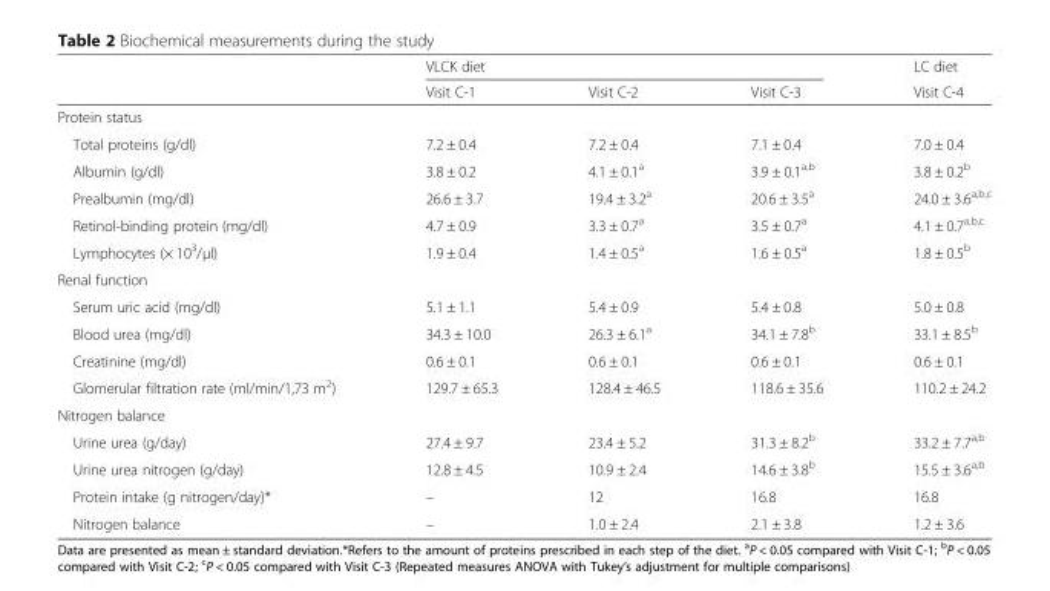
<table><thead><tr><td rowspan="2"></td><td colspan="3">VLCK diet</td><td rowspan="2">LC diet Visit C-4</td></tr><tr><td>Visit C-1</td><td>Visit C-2</td><td>Visit C-3</td></tr></thead><tbody><tr><td colspan="5">Protein status</td></tr><tr><td>Total proteins (g/dl)</td><td>7.2 ± 0.4</td><td>7.2 ± 0.4</td><td>7.1 ± 0.4</td><td>7.0 ± 0.4</td></tr><tr><td>Albumin (g/dl)</td><td>3.8 ± 0.2</td><td>4.1 ± 0.1<sup>a</sup></td><td>3.9 ± 0.1<sup>a,b</sup></td><td>3.8 ± 0.2<sup>b</sup></td></tr><tr><td>Prealbumin (mg/dl)</td><td>26.6 ± 3.7</td><td>19.4 ± 3.2<sup>a</sup></td><td>20.6 ± 3.5<sup>a</sup></td><td>24.0 ± 3.6<sup>a,b,c</sup></td></tr><tr><td>Retinol-binding protein (mg/dl)</td><td>4.7 ± 0.9</td><td>3.3 ± 0.7<sup>a</sup></td><td>3.5 ± 0.7<sup>a</sup></td><td>4.1 ± 0.7<sup>a,b,c</sup></td></tr><tr><td>Lymphocytes (× 10<sup>3</sup>/μl)</td><td>1.9 ± 0.4</td><td>1.4 ± 0.5<sup>a</sup></td><td>1.6 ± 0.5<sup>a</sup></td><td>1.8 ± 0.5<sup>b</sup></td></tr><tr><td colspan="5">Renal function</td></tr><tr><td>Serum uric acid (mg/dl)</td><td>5.1 ± 1.1</td><td>5.4 ± 0.9</td><td>5.4 ± 0.8</td><td>5.0 ± 0.8</td></tr><tr><td>Blood urea (mg/dl)</td><td>34.3 ± 10.0</td><td>26.3 ± 6.1<sup>a</sup></td><td>34.1 ± 7.8<sup>b</sup></td><td>33.1 ± 8.5<sup>b</sup></td></tr><tr><td>Creatinine (mg/dl)</td><td>0.6 ± 0.1</td><td>0.6 ± 0.1</td><td>0.6 ± 0.1</td><td>0.6 ± 0.1</td></tr><tr><td>Glomerular filtration rate (ml/min/1,73 m<sup>2</sup>)</td><td>129.7 ± 65.3</td><td>128.4 ± 46.5</td><td>118.6 ± 35.6</td><td>110.2 ± 24.2</td></tr><tr><td colspan="5">Nitrogen balance</td></tr><tr><td>Urine urea (g/day)</td><td>27.4 ± 9.7</td><td>23.4 ± 5.2</td><td>31.3 ± 8.2<sup>b</sup></td><td>33.2 ± 7.7<sup>a,b</sup></td></tr><tr><td>Urine urea nitrogen (g/day)</td><td>12.8 ± 4.5</td><td>10.9 ± 2.4</td><td>14.6 ± 3.8<sup>b</sup></td><td>15.5 ± 3.6<sup>a,b</sup></td></tr><tr><td>Protein intake (g nitrogen/day)*</td><td>–</td><td>12</td><td>16.8</td><td>16.8</td></tr><tr><td>Nitrogen balance</td><td>–</td><td>1.0 ± 2.4</td><td>2.1 ± 3.8</td><td>1.2 ± 3.6</td></tr></tbody></table>